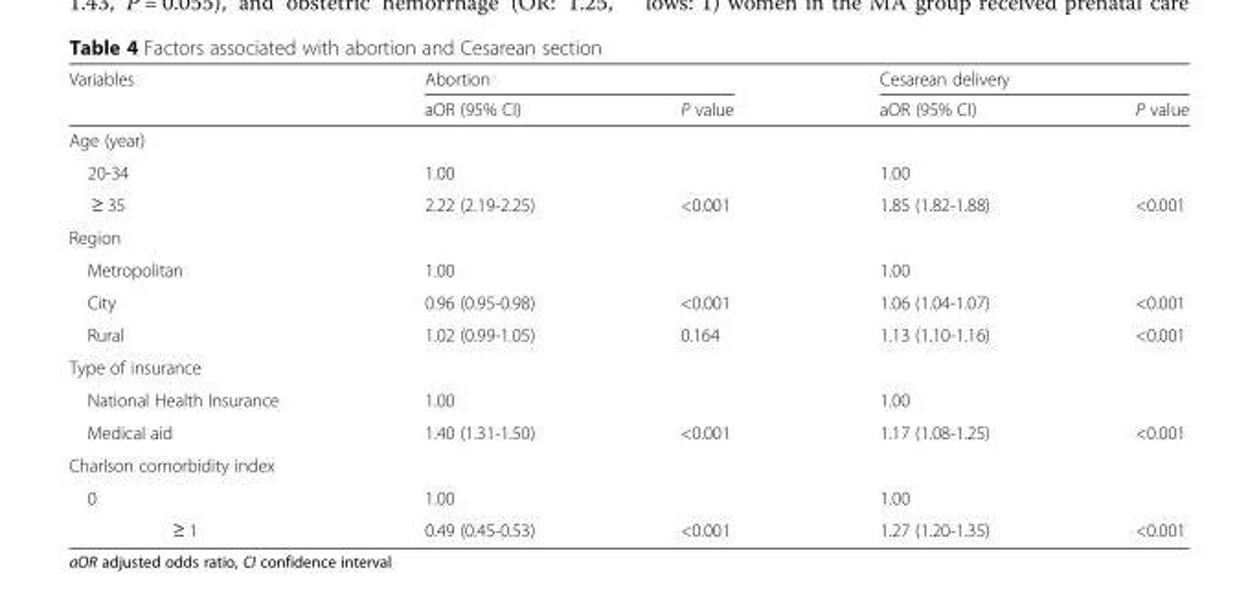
<table><thead><tr><td rowspan="2">Variables</td><td colspan="2">Abortion</td><td colspan="2">Cesarean delivery</td></tr><tr><td>aOR (95% CI)</td><td>P value</td><td>aOR (95% CI)</td><td>P value</td></tr></thead><tbody><tr><td colspan="5">Age (year)</td></tr><tr><td>20-34</td><td>1.00</td><td></td><td>1.00</td><td></td></tr><tr><td>≥ 35</td><td>2.22 (2.19-2.25)</td><td>&lt;0.001</td><td>1.85 (1.82-1.88)</td><td>&lt;0.001</td></tr><tr><td colspan="5">Region</td></tr><tr><td>Metropolitan</td><td>1.00</td><td></td><td>1.00</td><td></td></tr><tr><td>City</td><td>0.96 (0.95-0.98)</td><td>&lt;0.001</td><td>1.06 (1.04-1.07)</td><td>&lt;0.001</td></tr><tr><td>Rural</td><td>1.02 (0.99-1.05)</td><td>0.164</td><td>1.13 (1.10-1.16)</td><td>&lt;0.001</td></tr><tr><td colspan="5">Type of insurance</td></tr><tr><td>National Health Insurance</td><td>1.00</td><td></td><td>1.00</td><td></td></tr><tr><td>Medical aid</td><td>1.40 (1.31-1.50)</td><td>&lt;0.001</td><td>1.17 (1.08-1.25)</td><td>&lt;0.001</td></tr><tr><td colspan="5">Charlson comorbidity index</td></tr><tr><td>0</td><td>1.00</td><td></td><td>1.00</td><td></td></tr><tr><td>≥ 1</td><td>0.49 (0.45-0.53)</td><td>&lt;0.001</td><td>1.27 (1.20-1.35)</td><td>&lt;0.001</td></tr></tbody></table>